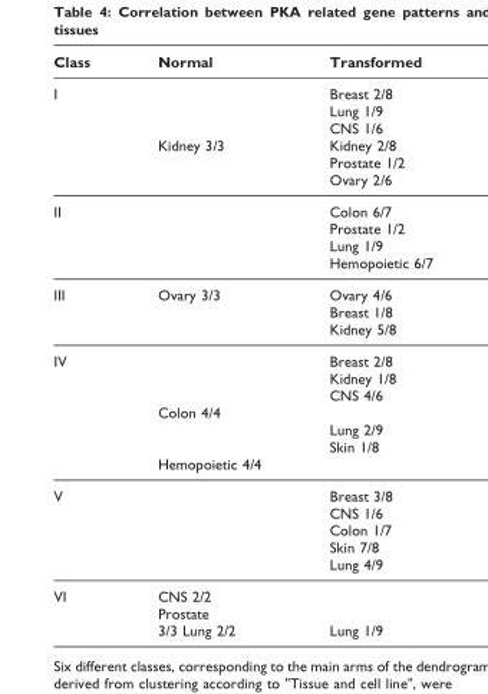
<table><thead><tr><td>Class</td><td>Normal</td><td>Transformed</td></tr></thead><tbody><tr><td>I</td><td>Kidney 3/3</td><td>Breast 2/8 Lung 1/9 CNS 1/6 Kidney 2/8 Prostate 1/2 Ovary 2/6</td></tr><tr><td>II</td><td></td><td>Colon 6/7 Prostate 1/2 Lung 1/9 Hemopoietic 6/7</td></tr><tr><td>III</td><td>Ovary 3/3</td><td>Ovary 4/6 Breast 1/8 Kidney 5/8</td></tr><tr><td>IV</td><td>Colon 4/4 Hemopoietic 4/4</td><td>Breast 2/8 Kidney 1/8 CNS 4/6 Lung 2/9 Skin 1/8</td></tr><tr><td>V</td><td></td><td>Breast 3/8 CNS 1/6 Colon 1/7 Skin 7/8 Lung 4/9</td></tr><tr><td>VI</td><td>CNS 2/2 Prostate 3/3 Lung 2/2</td><td>Lung 1/9</td></tr></tbody></table>